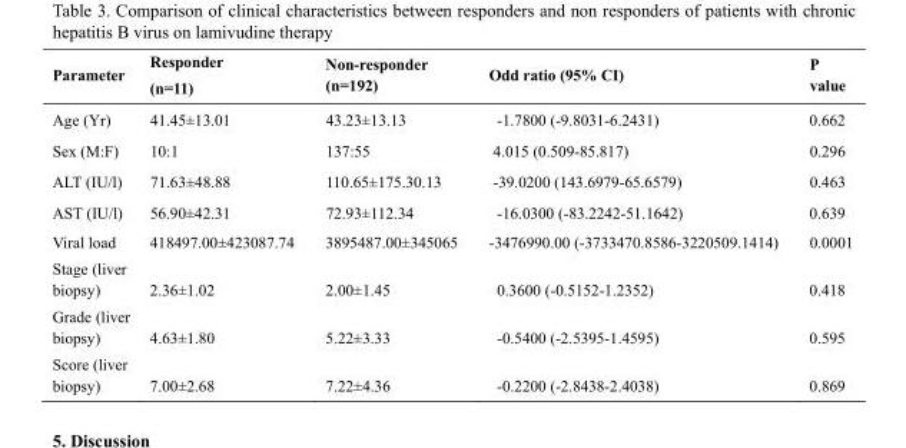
<table><thead><tr><td>Parameter</td><td>Responder (n=11)</td><td>Non-responder (n=192)</td><td>Odd ratio (95% CI)</td><td>P value</td></tr></thead><tbody><tr><td>Age (Yr)</td><td>41.45±13.01</td><td>43.23±13.13</td><td>-1.7800 (-9.8031-6.2431)</td><td>0.662</td></tr><tr><td>Sex (M:F)</td><td>10:1</td><td>137:55</td><td>4.015 (0.509-85.817)</td><td>0.296</td></tr><tr><td>ALT (IU/l)</td><td>71.63±48.88</td><td>110.65±175.30.13</td><td>-39.0200 (143.6979-65.6579)</td><td>0.463</td></tr><tr><td>AST (IU/l)</td><td>56.90±42.31</td><td>72.93±112.34</td><td>-16.0300 (-83.2242-51.1642)</td><td>0.639</td></tr><tr><td>Viral load</td><td>418497.00±423087.74</td><td>3895487.00±345065</td><td>-3476990.00 (-3733470.8586-3220509.1414)</td><td>0.0001</td></tr><tr><td>Stage (liver biopsy)</td><td>2.36±1.02</td><td>2.00±1.45</td><td>0.3600 (-0.5152-1.2352)</td><td>0.418</td></tr><tr><td>Grade (liver biopsy)</td><td>4.63±1.80</td><td>5.22±3.33</td><td>-0.5400 (-2.5395-1.4595)</td><td>0.595</td></tr><tr><td>Score (liver biopsy)</td><td>7.00±2.68</td><td>7.22±4.36</td><td>-0.2200 (-2.8438-2.4038)</td><td>0.869</td></tr></tbody></table>